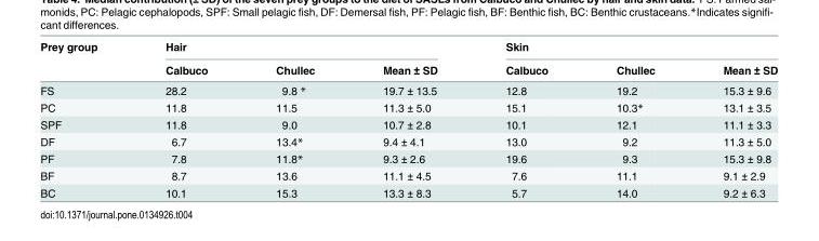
<table><thead><tr><td rowspan="2">Prey group</td><td colspan="3">Hair</td><td colspan="3">Skin</td></tr><tr><td>Calbuco</td><td>Chullec</td><td>Mean ± SD</td><td>Calbuco</td><td>Chullec</td><td>Mean ± SD</td></tr></thead><tbody><tr><td>FS</td><td>28.2</td><td>9.8 *</td><td>19.7 ± 13.5</td><td>12.8</td><td>19.2</td><td>15.3 ± 9.6</td></tr><tr><td>PC</td><td>11.8</td><td>11.5</td><td>11.3 ± 5.0</td><td>15.1</td><td>10.3*</td><td>13.1 ± 3.5</td></tr><tr><td>SPF</td><td>11.8</td><td>9.0</td><td>10.7 ± 2.8</td><td>10.1</td><td>12.1</td><td>11.1 ± 3.3</td></tr><tr><td>DF</td><td>6.7</td><td>13.4*</td><td>9.4 ± 4.1</td><td>13.0</td><td>9.2</td><td>11.3 ± 5.0</td></tr><tr><td>PF</td><td>7.8</td><td>11.8*</td><td>9.3 ± 2.6</td><td>19.6</td><td>9.3</td><td>15.3 ± 9.8</td></tr><tr><td>BF</td><td>8.7</td><td>13.6</td><td>11.1 ± 4.5</td><td>7.6</td><td>11.1</td><td>9.1 ± 2.9</td></tr><tr><td>BC</td><td>10.1</td><td>15.3</td><td>13.3 ± 8.3</td><td>5.7</td><td>14.0</td><td>9.2 ± 6.3</td></tr></tbody></table>